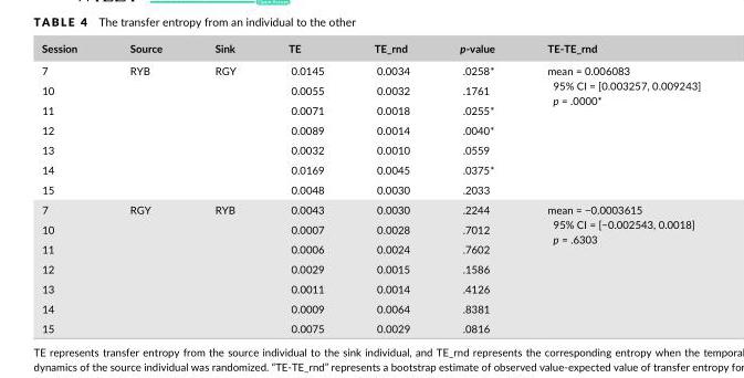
<table><thead><tr><td>Session</td><td>Source</td><td>Sink</td><td>TE</td><td>TE_rnd</td><td>p- value</td><td>TE- TE_rnd</td></tr></thead><tbody><tr><td>7</td><td rowspan="7">RYB</td><td rowspan="7">RGY</td><td>0.0145</td><td>0.0034</td><td>.0258*</td><td rowspan="7">mean = 0.006083 95% CI = [0.003257, 0.009243] p = .0000*</td></tr><tr><td>10</td><td>0.0055</td><td>0.0032</td><td>.1761</td></tr><tr><td>11</td><td>0.0071</td><td>0.0018</td><td>.0255*</td></tr><tr><td>12</td><td>0.0089</td><td>0.0014</td><td>.0040*</td></tr><tr><td>13</td><td>0.0032</td><td>0.0010</td><td>.0559</td></tr><tr><td>14</td><td>0.0169</td><td>0.0045</td><td>.0375*</td></tr><tr><td>15</td><td>0.0048</td><td>0.0030</td><td>.2033</td></tr><tr><td>7</td><td rowspan="7">RGY</td><td rowspan="7">RYB</td><td>0.0043</td><td>0.0030</td><td>.2244</td><td rowspan="7">mean = −0.0003615 95% CI = [−0.002543, 0.0018] p = .6303</td></tr><tr><td>10</td><td>0.0007</td><td>0.0028</td><td>.7012</td></tr><tr><td>11</td><td>0.0006</td><td>0.0024</td><td>.7602</td></tr><tr><td>12</td><td>0.0029</td><td>0.0015</td><td>.1586</td></tr><tr><td>13</td><td>0.0011</td><td>0.0014</td><td>.4126</td></tr><tr><td>14</td><td>0.0009</td><td>0.0064</td><td>.8381</td></tr><tr><td>15</td><td>0.0075</td><td>0.0029</td><td>.0816</td></tr></tbody></table>